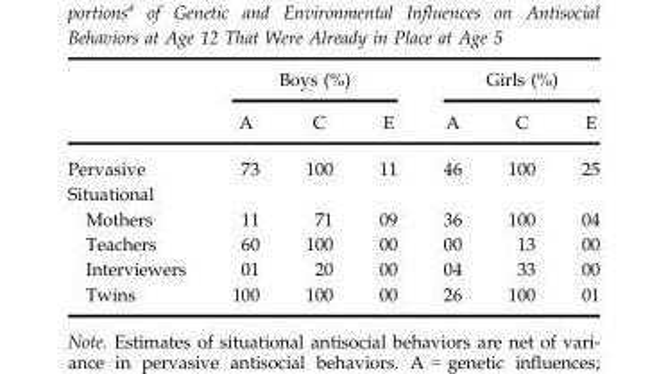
<table><thead><tr><td rowspan="2"></td><td colspan="3">Boys (%)</td><td colspan="3">Girls (%)</td></tr><tr><td>A</td><td>C</td><td>E</td><td>A</td><td>C</td><td>E</td></tr></thead><tbody><tr><td>Pervasive</td><td>73</td><td>100</td><td>11</td><td>46</td><td>100</td><td>25</td></tr><tr><td colspan="7">Situational</td></tr><tr><td>Mothers</td><td>11</td><td>71</td><td>09</td><td>36</td><td>100</td><td>04</td></tr><tr><td>Teachers</td><td>60</td><td>100</td><td>00</td><td>00</td><td>13</td><td>00</td></tr><tr><td>Interviewers</td><td>01</td><td>20</td><td>00</td><td>04</td><td>33</td><td>00</td></tr><tr><td>Twins</td><td>100</td><td>100</td><td>00</td><td>26</td><td>100</td><td>01</td></tr></tbody></table>